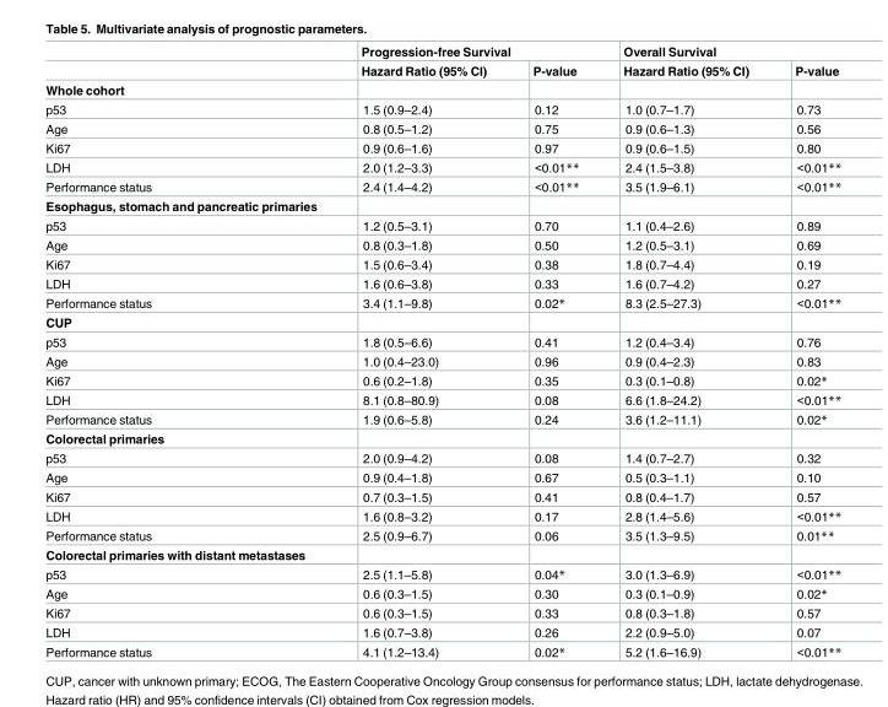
<table><thead><tr><td rowspan="2"></td><td colspan="2">Progression-free Survival</td><td colspan="2">Overall Survival</td></tr><tr><td>Hazard Ratio (95% CI)</td><td>P-value</td><td>Hazard Ratio (95% CI)</td><td>P-value</td></tr></thead><tbody><tr><td colspan="5">Whole cohort</td></tr><tr><td>p53</td><td>1.5 (0.9–2.4)</td><td>0.12</td><td>1.0 (0.7–1.7)</td><td>0.73</td></tr><tr><td>Age</td><td>0.8 (0.5–1.2)</td><td>0.75</td><td>0.9 (0.6–1.3)</td><td>0.56</td></tr><tr><td>Ki67</td><td>0.9 (0.6–1.6)</td><td>0.97</td><td>0.9 (0.6–1.5)</td><td>0.80</td></tr><tr><td>LDH</td><td>2.0 (1.2–3.3)</td><td>&lt;0.01**</td><td>2.4 (1.5–3.8)</td><td>&lt;0.01**</td></tr><tr><td>Performance status</td><td>2.4 (1.4–4.2)</td><td>&lt;0.01**</td><td>3.5 (1.9–6.1)</td><td>&lt;0.01**</td></tr><tr><td colspan="5">Esophagus, stomach and pancreatic primaries</td></tr><tr><td>p53</td><td>1.2 (0.5–3.1)</td><td>0.70</td><td>1.1 (0.4–2.6)</td><td>0.89</td></tr><tr><td>Age</td><td>0.8 (0.3–1.8)</td><td>0.50</td><td>1.2 (0.5–3.1)</td><td>0.69</td></tr><tr><td>Ki67</td><td>1.5 (0.6–3.4)</td><td>0.38</td><td>1.8 (0.7–4.4)</td><td>0.19</td></tr><tr><td>LDH</td><td>1.6 (0.6–3.8)</td><td>0.33</td><td>1.6 (0.7–4.2)</td><td>0.27</td></tr><tr><td>Performance status</td><td>3.4 (1.1–9.8)</td><td>0.02*</td><td>8.3 (2.5–27.3)</td><td>&lt;0.01**</td></tr><tr><td colspan="5">CUP</td></tr><tr><td>p53</td><td>1.8 (0.5–6.6)</td><td>0.41</td><td>1.2 (0.4–3.4)</td><td>0.76</td></tr><tr><td>Age</td><td>1.0 (0.4–23.0)</td><td>0.96</td><td>0.9 (0.4–2.3)</td><td>0.83</td></tr><tr><td>Ki67</td><td>0.6 (0.2–1.8)</td><td>0.35</td><td>0.3 (0.1–0.8)</td><td>0.02*</td></tr><tr><td>LDH</td><td>8.1 (0.8–80.9)</td><td>0.08</td><td>6.6 (1.8–24.2)</td><td>&lt;0.01**</td></tr><tr><td>Performance status</td><td>1.9 (0.6–5.8)</td><td>0.24</td><td>3.6 (1.2–11.1)</td><td>0.02*</td></tr><tr><td colspan="5">Colorectal primaries</td></tr><tr><td>p53</td><td>2.0 (0.9–4.2)</td><td>0.08</td><td>1.4 (0.7–2.7)</td><td>0.32</td></tr><tr><td>Age</td><td>0.9 (0.4–1.8)</td><td>0.67</td><td>0.5 (0.3–1.1)</td><td>0.10</td></tr><tr><td>Ki67</td><td>0.7 (0.3–1.5)</td><td>0.41</td><td>0.8 (0.4–1.7)</td><td>0.57</td></tr><tr><td>LDH</td><td>1.6 (0.8–3.2)</td><td>0.17</td><td>2.8 (1.4–5.6)</td><td>&lt;0.01**</td></tr><tr><td>Performance status</td><td>2.5 (0.9–6.7)</td><td>0.06</td><td>3.5 (1.3–9.5)</td><td>0.01**</td></tr><tr><td colspan="5">Colorectal primaries with distant metastases</td></tr><tr><td>p53</td><td>2.5 (1.1–5.8)</td><td>0.04*</td><td>3.0 (1.3–6.9)</td><td>&lt;0.01**</td></tr><tr><td>Age</td><td>0.6 (0.3–1.5)</td><td>0.30</td><td>0.3 (0.1–0.9)</td><td>0.02*</td></tr><tr><td>Ki67</td><td>0.6 (0.3–1.5)</td><td>0.33</td><td>0.8 (0.3–1.8)</td><td>0.57</td></tr><tr><td>LDH</td><td>1.6 (0.7–3.8)</td><td>0.26</td><td>2.2 (0.9–5.0)</td><td>0.07</td></tr><tr><td>Performance status</td><td>4.1 (1.2–13.4)</td><td>0.02*</td><td>5.2 (1.6–16.9)</td><td>&lt;0.01**</td></tr></tbody></table>